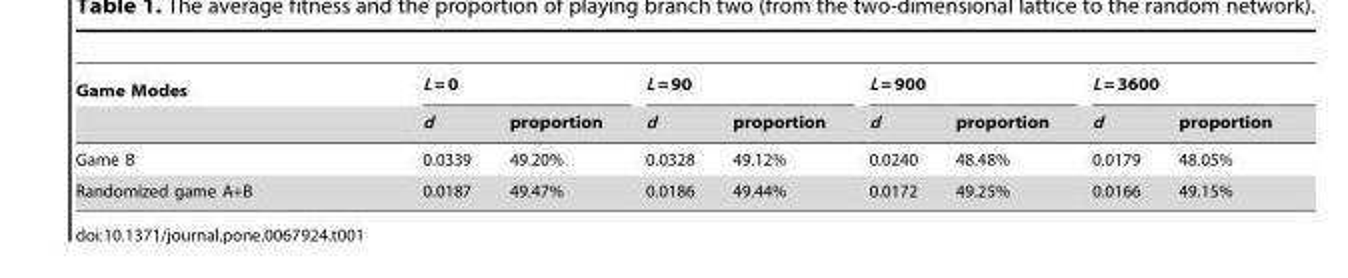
<table><thead><tr><td rowspan="2">Game Modes</td><td colspan="2">L = 0</td><td colspan="2">L = 90</td><td colspan="2">L = 900</td><td colspan="2">L = 3600</td></tr><tr><td>d</td><td>proportion</td><td>d</td><td>proportion</td><td>d</td><td>proportion</td><td>d</td><td>proportion</td></tr></thead><tbody><tr><td>Game B</td><td>0.0339</td><td>49.20%</td><td>0.0328</td><td>49.12%</td><td>0.0240</td><td>48.48%</td><td>0.0179</td><td>48.05%</td></tr><tr><td>Randomized game A+B</td><td>0.0187</td><td>49.47%</td><td>0.0186</td><td>49.44%</td><td>0.0172</td><td>49.25%</td><td>0.0166</td><td>49.15%</td></tr></tbody></table>